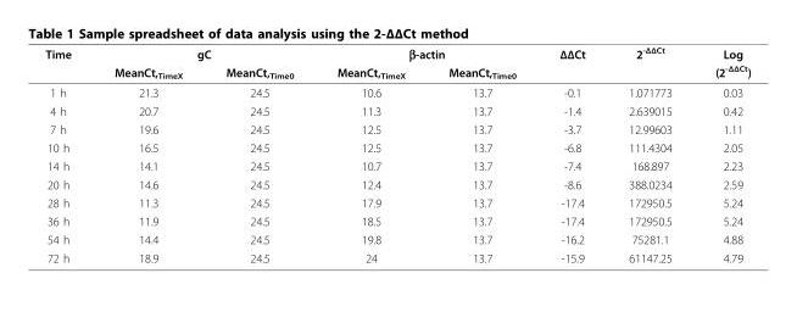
<table><thead><tr><td rowspan="2">Time</td><td colspan="2">gC</td><td colspan="2">β-actin</td><td rowspan="2">ΔΔCt</td><td rowspan="2">2<sup>-ΔΔCt</sup></td><td rowspan="2">Log (2<sup>-ΔΔCt</sup>)</td></tr><tr><td>MeanCt,<sub>TimeX</sub></td><td>MeanCt,<sub>Time0</sub></td><td>MeanCt,<sub>TimeX</sub></td><td>MeanCt,<sub>Time0</sub></td></tr></thead><tbody><tr><td>1 h</td><td>21.3</td><td>24.5</td><td>10.6</td><td>13.7</td><td>-0.1</td><td>1.071773</td><td>0.03</td></tr><tr><td>4 h</td><td>20.7</td><td>24.5</td><td>11.3</td><td>13.7</td><td>-1.4</td><td>2.639015</td><td>0.42</td></tr><tr><td>7 h</td><td>19.6</td><td>24.5</td><td>12.5</td><td>13.7</td><td>-3.7</td><td>12.99603</td><td>1.11</td></tr><tr><td>10 h</td><td>16.5</td><td>24.5</td><td>12.5</td><td>13.7</td><td>-6.8</td><td>111.4304</td><td>2.05</td></tr><tr><td>14 h</td><td>14.1</td><td>24.5</td><td>10.7</td><td>13.7</td><td>-7.4</td><td>168.897</td><td>2.23</td></tr><tr><td>20 h</td><td>14.6</td><td>24.5</td><td>12.4</td><td>13.7</td><td>-8.6</td><td>388.0234</td><td>2.59</td></tr><tr><td>28 h</td><td>11.3</td><td>24.5</td><td>17.9</td><td>13.7</td><td>-17.4</td><td>172950.5</td><td>5.24</td></tr><tr><td>36 h</td><td>11.9</td><td>24.5</td><td>18.5</td><td>13.7</td><td>-17.4</td><td>172950.5</td><td>5.24</td></tr><tr><td>54 h</td><td>14.4</td><td>24.5</td><td>19.8</td><td>13.7</td><td>-16.2</td><td>75281.1</td><td>4.88</td></tr><tr><td>72 h</td><td>18.9</td><td>24.5</td><td>24</td><td>13.7</td><td>-15.9</td><td>61147.25</td><td>4.79</td></tr></tbody></table>